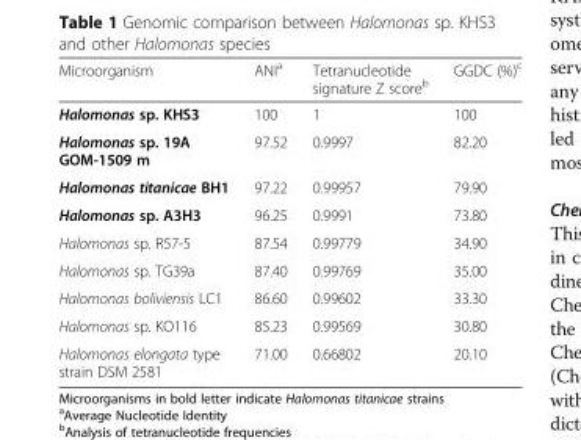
<table><thead><tr><td>Microorganism</td><td>ANI<sup>a</sup></td><td>Tetranucleotide signature Z score<sup>b</sup></td><td>GGDC (%)<sup>c</sup></td></tr></thead><tbody><tr><td>Halomonas sp. KHS3</td><td>100</td><td>1</td><td>100</td></tr><tr><td>Halomonas sp. 19A GOM-1509 m</td><td>97.52</td><td>0.9997</td><td>82.20</td></tr><tr><td>Halomonas titanicae BH1</td><td>97.22</td><td>0.99957</td><td>79.90</td></tr><tr><td>Halomonas sp. A3H3</td><td>96.25</td><td>0.9991</td><td>73.80</td></tr><tr><td>Halomonas sp. R57-5</td><td>87.54</td><td>0.99779</td><td>34.90</td></tr><tr><td>Halomonas sp. TG39a</td><td>87.40</td><td>0.99769</td><td>35.00</td></tr><tr><td>Halomonas boliviensis LC1</td><td>86.60</td><td>0.99602</td><td>33.30</td></tr><tr><td>Halomonas sp. KO116</td><td>85.23</td><td>0.99569</td><td>30.80</td></tr><tr><td>Halomonas elongata type strain DSM 2581</td><td>71.00</td><td>0.66802</td><td>20.10</td></tr></tbody></table>